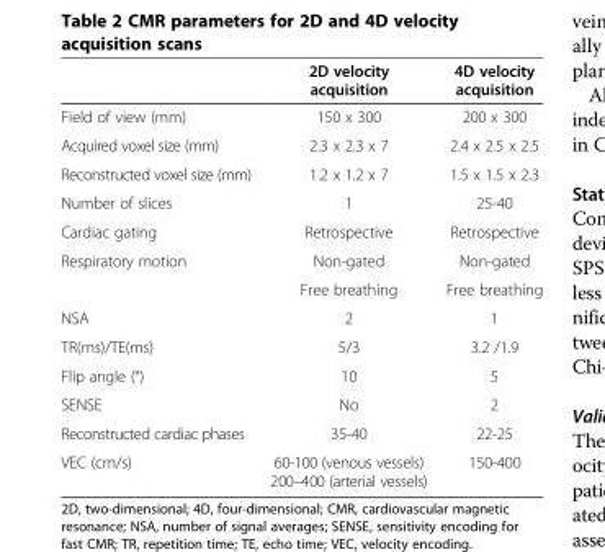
<table><thead><tr><td></td><td>2D velocity acquisition</td><td>4D velocity acquisition</td></tr></thead><tbody><tr><td>Field of view (mm)</td><td>150 x 300</td><td>200 x 300</td></tr><tr><td>Acquired voxel size (mm)</td><td>2.3 x 2.3 x 7</td><td>2.4 x 2.5 x 2.5</td></tr><tr><td>Reconstructed voxel size (mm)</td><td>1.2 x 1.2 x 7</td><td>1.5 x 1.5 x 2.3</td></tr><tr><td>Number of slices</td><td>1</td><td>25-40</td></tr><tr><td>Cardiac gating</td><td>Retrospective</td><td>Retrospective</td></tr><tr><td rowspan="2">Respiratory motion</td><td>Non-gated</td><td>Non-gated</td></tr><tr><td>Free breathing</td><td>Free breathing</td></tr><tr><td>NSA</td><td>2</td><td>1</td></tr><tr><td>TR(ms)/TE(ms)</td><td>5/3</td><td>3.2 /1.9</td></tr><tr><td>Flip angle (°)</td><td>10</td><td>5</td></tr><tr><td>SENSE</td><td>No</td><td>2</td></tr><tr><td>Reconstructed cardiac phases</td><td>35-40</td><td>22-25</td></tr><tr><td>VEC (cm/s)</td><td>60-100 (venous vessels) 200–400 (arterial vessels)</td><td>150-400</td></tr></tbody></table>